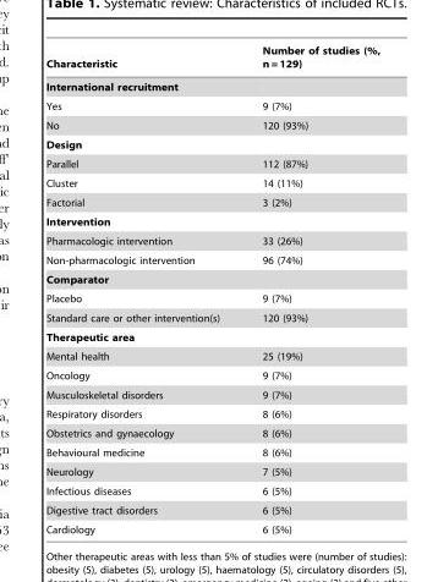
<table><thead><tr><td>Characteristic</td><td>Number of studies (%, n = 129)</td></tr></thead><tbody><tr><td colspan="2">International recruitment</td></tr><tr><td>Yes</td><td>9 (7%)</td></tr><tr><td>No</td><td>120 (93%)</td></tr><tr><td colspan="2">Design</td></tr><tr><td>Parallel</td><td>112 (87%)</td></tr><tr><td>Cluster</td><td>14 (11%)</td></tr><tr><td>Factorial</td><td>3 (2%)</td></tr><tr><td colspan="2">Intervention</td></tr><tr><td>Pharmacologic intervention</td><td>33 (26%)</td></tr><tr><td>Non-pharmacologic intervention</td><td>96 (74%)</td></tr><tr><td colspan="2">Comparator</td></tr><tr><td>Placebo</td><td>9 (7%)</td></tr><tr><td>Standard care or other intervention(s)</td><td>120 (93%)</td></tr><tr><td colspan="2">Therapeutic area</td></tr><tr><td>Mental health</td><td>25 (19%)</td></tr><tr><td>Oncology</td><td>9 (7%)</td></tr><tr><td>Musculoskeletal disorders</td><td>9 (7%)</td></tr><tr><td>Respiratory disorders</td><td>8 (6%)</td></tr><tr><td>Obstetrics and gynaecology</td><td>8 (6%)</td></tr><tr><td>Behavioural medicine</td><td>8 (6%)</td></tr><tr><td>Neurology</td><td>7 (5%)</td></tr><tr><td>Infectious diseases</td><td>6 (5%)</td></tr><tr><td>Digestive tract disorders</td><td>6 (5%)</td></tr><tr><td>Cardiology</td><td>6 (5%)</td></tr></tbody></table>